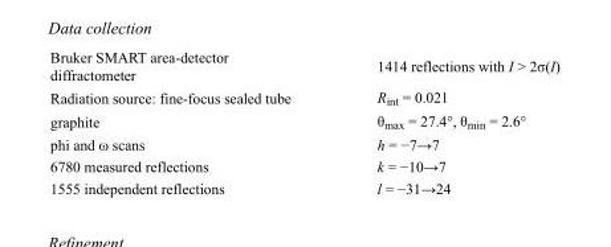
<table><tbody><tr><td>Bruker SMART area-detector diffractometer</td><td>1414 reflections with I &gt; 2σ(I)</td></tr><tr><td>Radiation source: fine-focus sealed tube</td><td>R<sub>int</sub> = 0.021</td></tr><tr><td>graphite</td><td>θ<sub>max</sub> = 27.4°, θ<sub>min</sub> = 2.6°</td></tr><tr><td>phi and ω scans</td><td>h = −7→7</td></tr><tr><td>6780 measured reflections</td><td>k = −10→7</td></tr><tr><td>1555 independent reflections</td><td>l = −31→24</td></tr></tbody></table>